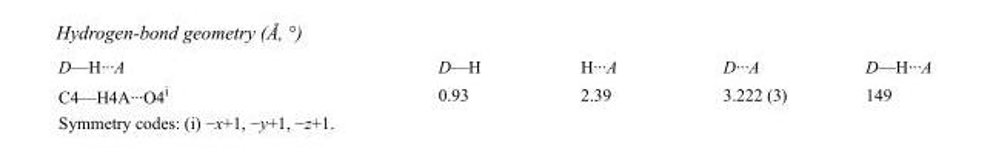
<table><tbody><tr><td>D—H···A</td><td>D—H</td><td>H···A</td><td>D···A</td><td>D—H···A</td></tr><tr><td>C4—H4A···O4<sup>i</sup></td><td>0.93</td><td>2.39</td><td>3.222 (3)</td><td>149</td></tr></tbody></table>